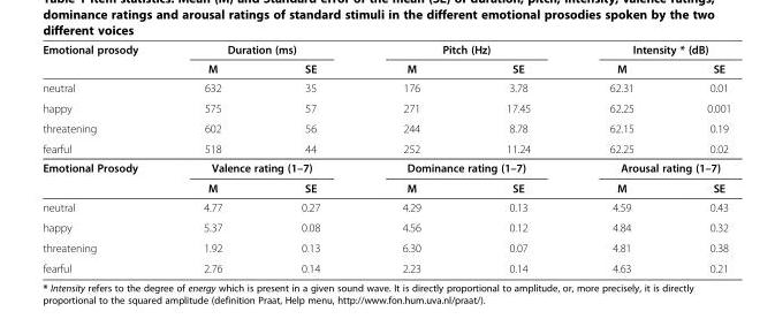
<table><thead><tr><td rowspan="2">Emotional prosody</td><td colspan="2">Duration (ms)</td><td colspan="2">Pitch (Hz)</td><td colspan="2">Intensity * (dB)</td></tr><tr><td>M</td><td>SE</td><td>M</td><td>SE</td><td>M</td><td>SE</td></tr></thead><tbody><tr><td>neutral</td><td>632</td><td>35</td><td>176</td><td>3.78</td><td>62.31</td><td>0.01</td></tr><tr><td>happy</td><td>575</td><td>57</td><td>271</td><td>17.45</td><td>62.25</td><td>0.001</td></tr><tr><td>threatening</td><td>602</td><td>56</td><td>244</td><td>8.78</td><td>62.15</td><td>0.19</td></tr><tr><td>fearful</td><td>518</td><td>44</td><td>252</td><td>11.24</td><td>62.25</td><td>0.02</td></tr><tr><td rowspan="2">Emotional Prosody</td><td colspan="2">Valence rating (1–7)</td><td colspan="2">Dominance rating (1–7)</td><td colspan="2">Arousal rating (1–7)</td></tr><tr><td>M</td><td>SE</td><td>M</td><td>SE</td><td>M</td><td>SE</td></tr><tr><td>neutral</td><td>4.77</td><td>0.27</td><td>4.29</td><td>0.13</td><td>4.59</td><td>0.43</td></tr><tr><td>happy</td><td>5.37</td><td>0.08</td><td>4.56</td><td>0.12</td><td>4.84</td><td>0.32</td></tr><tr><td>threatening</td><td>1.92</td><td>0.13</td><td>6.30</td><td>0.07</td><td>4.81</td><td>0.38</td></tr><tr><td>fearful</td><td>2.76</td><td>0.14</td><td>2.23</td><td>0.14</td><td>4.63</td><td>0.21</td></tr></tbody></table>